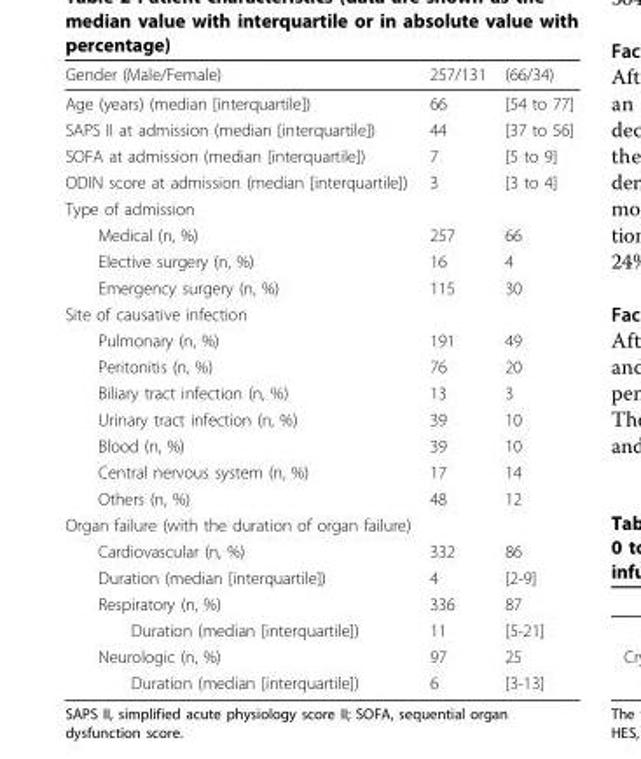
<table><thead><tr><td>Gender (Male/Female)</td><td>257/131</td><td>(66/34)</td></tr></thead><tbody><tr><td>Age (years) (median [interquartile])</td><td>66</td><td>[54 to 77]</td></tr><tr><td>SAPS II at admission (median [interquartile])</td><td>44</td><td>[37 to 56]</td></tr><tr><td>SOFA at admission (median [interquartile])</td><td>7</td><td>[5 to 9]</td></tr><tr><td>ODIN score at admission (median [interquartile])</td><td>3</td><td>[3 to 4]</td></tr><tr><td colspan="3">Type of admission</td></tr><tr><td>Medical (n, %)</td><td>257</td><td>66</td></tr><tr><td>Elective surgery (n, %)</td><td>16</td><td>4</td></tr><tr><td>Emergency surgery (n, %)</td><td>115</td><td>30</td></tr><tr><td colspan="3">Site of causative infection</td></tr><tr><td>Pulmonary (n, %)</td><td>191</td><td>49</td></tr><tr><td>Peritonitis (n, %)</td><td>76</td><td>20</td></tr><tr><td>Biliary tract infection (n, %)</td><td>13</td><td>3</td></tr><tr><td>Urinary tract infection (n, %)</td><td>39</td><td>10</td></tr><tr><td>Blood (n, %)</td><td>39</td><td>10</td></tr><tr><td>Central nervous system (n, %)</td><td>17</td><td>14</td></tr><tr><td>Others (n, %)</td><td>48</td><td>12</td></tr><tr><td colspan="3">Organ failure (with the duration of organ failure)</td></tr><tr><td>Cardiovascular (n, %)</td><td>332</td><td>86</td></tr><tr><td>Duration (median [interquartile])</td><td>4</td><td>[2-9]</td></tr><tr><td>Respiratory (n, %)</td><td>336</td><td>87</td></tr><tr><td>Duration (median [interquartile])</td><td>11</td><td>[5-21]</td></tr><tr><td>Neurologic (n, %)</td><td>97</td><td>25</td></tr><tr><td>Duration (median [interquartile])</td><td>6</td><td>[3-13]</td></tr></tbody></table>